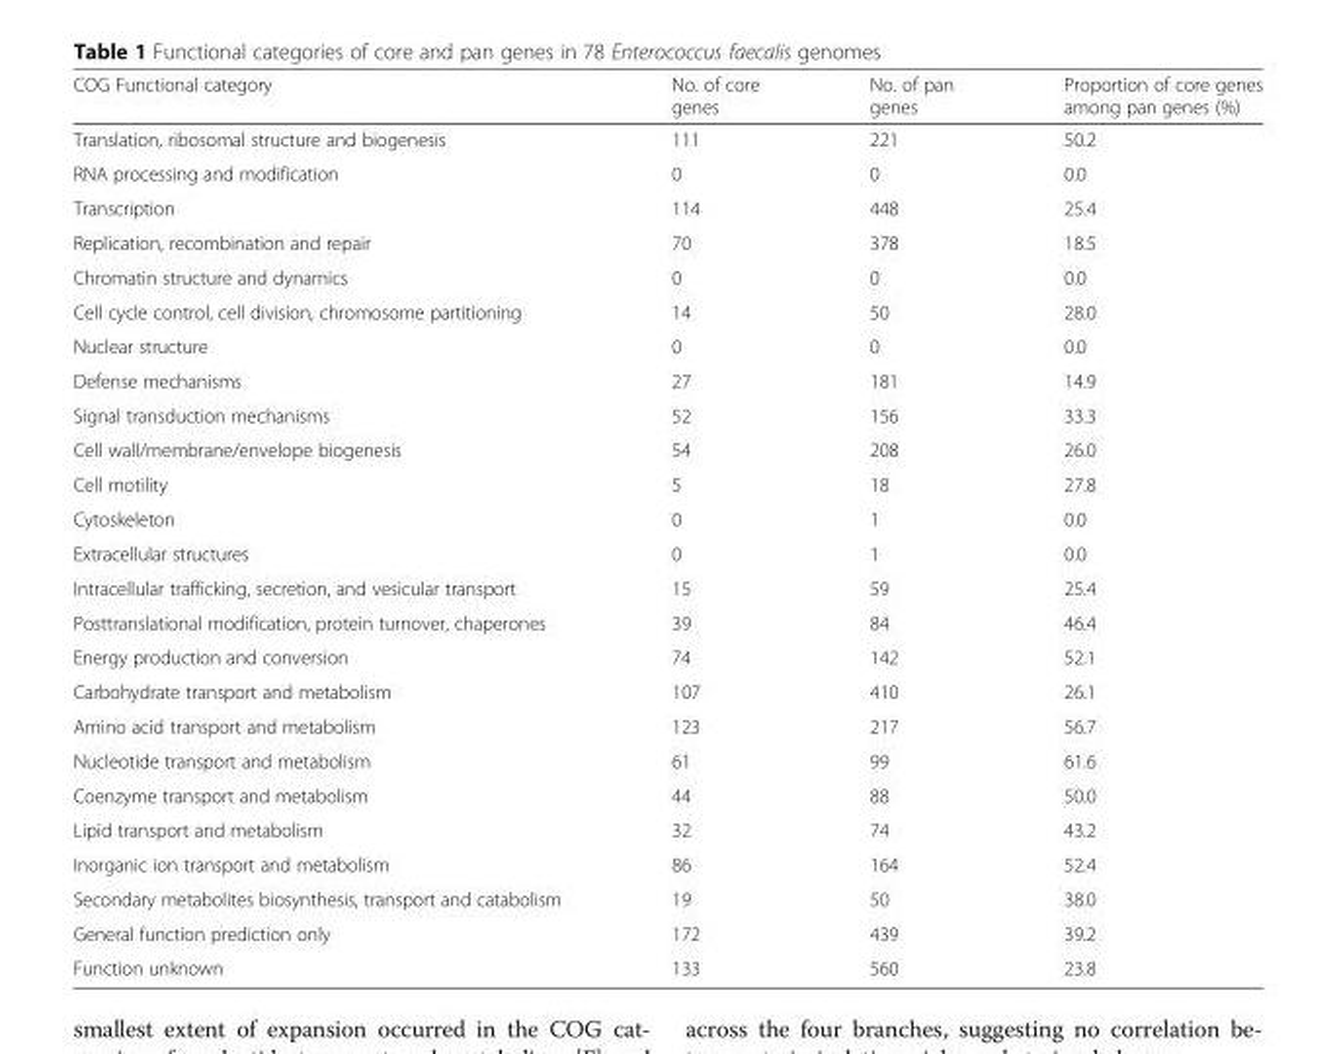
<table><thead><tr><td>COG Functional category</td><td>No. of core genes</td><td>No. of pan genes</td><td>Proportion of core genes among pan genes (%)</td></tr></thead><tbody><tr><td>Translation, ribosomal structure and biogenesis</td><td>111</td><td>221</td><td>50.2</td></tr><tr><td>RNA processing and modification</td><td>0</td><td>0</td><td>0.0</td></tr><tr><td>Transcription</td><td>114</td><td>448</td><td>25.4</td></tr><tr><td>Replication, recombination and repair</td><td>70</td><td>378</td><td>18.5</td></tr><tr><td>Chromatin structure and dynamics</td><td>0</td><td>0</td><td>0.0</td></tr><tr><td>Cell cycle control, cell division, chromosome partitioning</td><td>14</td><td>50</td><td>28.0</td></tr><tr><td>Nuclear structure</td><td>0</td><td>0</td><td>0.0</td></tr><tr><td>Defense mechanisms</td><td>27</td><td>181</td><td>14.9</td></tr><tr><td>Signal transduction mechanisms</td><td>52</td><td>156</td><td>33.3</td></tr><tr><td>Cell wall/membrane/envelope biogenesis</td><td>54</td><td>208</td><td>26.0</td></tr><tr><td>Cell motility</td><td>5</td><td>18</td><td>27.8</td></tr><tr><td>Cytoskeleton</td><td>0</td><td>1</td><td>0.0</td></tr><tr><td>Extracellular structures</td><td>0</td><td>1</td><td>0.0</td></tr><tr><td>Intracellular trafficking, secretion, and vesicular transport</td><td>15</td><td>59</td><td>25.4</td></tr><tr><td>Posttranslational modification, protein turnover, chaperones</td><td>39</td><td>84</td><td>46.4</td></tr><tr><td>Energy production and conversion</td><td>74</td><td>142</td><td>52.1</td></tr><tr><td>Carbohydrate transport and metabolism</td><td>107</td><td>410</td><td>26.1</td></tr><tr><td>Amino acid transport and metabolism</td><td>123</td><td>217</td><td>56.7</td></tr><tr><td>Nucleotide transport and metabolism</td><td>61</td><td>99</td><td>61.6</td></tr><tr><td>Coenzyme transport and metabolism</td><td>44</td><td>88</td><td>50.0</td></tr><tr><td>Lipid transport and metabolism</td><td>32</td><td>74</td><td>43.2</td></tr><tr><td>Inorganic ion transport and metabolism</td><td>86</td><td>164</td><td>52.4</td></tr><tr><td>Secondary metabolites biosynthesis, transport and catabolism</td><td>19</td><td>50</td><td>38.0</td></tr><tr><td>General function prediction only</td><td>172</td><td>439</td><td>39.2</td></tr><tr><td>Function unknown</td><td>133</td><td>560</td><td>23.8</td></tr></tbody></table>